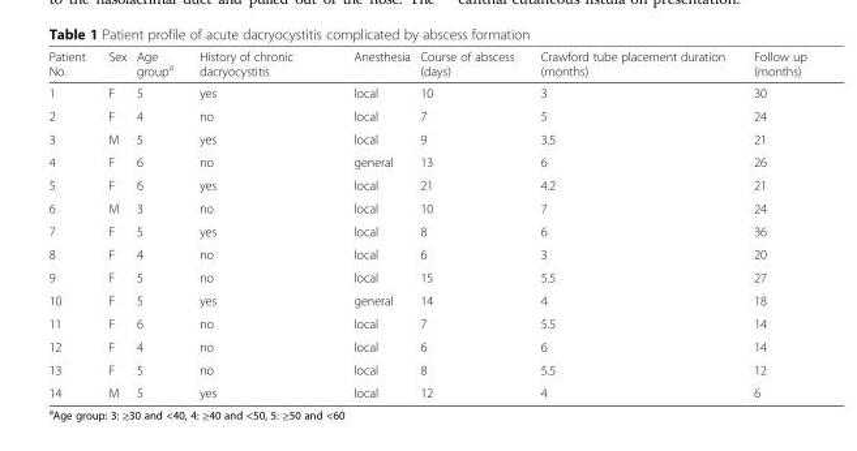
<table><thead><tr><td>Patient No.</td><td>Sex</td><td>Age group<sup>a</sup></td><td>History of chronic dacryocystitis</td><td>Anesthesia</td><td>Course of abscess (days)</td><td>Crawford tube placement duration (months)</td><td>Follow up (months)</td></tr></thead><tbody><tr><td>1</td><td>F</td><td>5</td><td>yes</td><td>local</td><td>10</td><td>3</td><td>30</td></tr><tr><td>2</td><td>F</td><td>4</td><td>no</td><td>local</td><td>7</td><td>5</td><td>24</td></tr><tr><td>3</td><td>M</td><td>5</td><td>yes</td><td>local</td><td>9</td><td>3.5</td><td>21</td></tr><tr><td>4</td><td>F</td><td>6</td><td>no</td><td>general</td><td>13</td><td>6</td><td>26</td></tr><tr><td>5</td><td>F</td><td>6</td><td>yes</td><td>local</td><td>21</td><td>4.2</td><td>21</td></tr><tr><td>6</td><td>M</td><td>3</td><td>no</td><td>local</td><td>10</td><td>7</td><td>24</td></tr><tr><td>7</td><td>F</td><td>5</td><td>yes</td><td>local</td><td>8</td><td>6</td><td>36</td></tr><tr><td>8</td><td>F</td><td>4</td><td>no</td><td>local</td><td>6</td><td>3</td><td>20</td></tr><tr><td>9</td><td>F</td><td>5</td><td>no</td><td>local</td><td>15</td><td>5.5</td><td>27</td></tr><tr><td>10</td><td>F</td><td>5</td><td>yes</td><td>general</td><td>14</td><td>4</td><td>18</td></tr><tr><td>11</td><td>F</td><td>6</td><td>no</td><td>local</td><td>7</td><td>5.5</td><td>14</td></tr><tr><td>12</td><td>F</td><td>4</td><td>no</td><td>local</td><td>6</td><td>6</td><td>14</td></tr><tr><td>13</td><td>F</td><td>5</td><td>no</td><td>local</td><td>8</td><td>5.5</td><td>12</td></tr><tr><td>14</td><td>M</td><td>5</td><td>yes</td><td>local</td><td>12</td><td>4</td><td>6</td></tr></tbody></table>